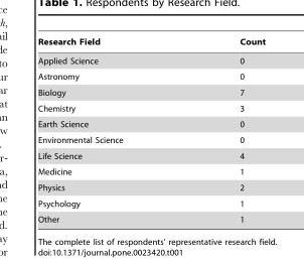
<table><thead><tr><td>Research Field</td><td>Count</td></tr></thead><tbody><tr><td>Applied Science</td><td>0</td></tr><tr><td>Astronomy</td><td>0</td></tr><tr><td>Biology</td><td>7</td></tr><tr><td>Chemistry</td><td>3</td></tr><tr><td>Earth Science</td><td>0</td></tr><tr><td>Environmental Science</td><td>0</td></tr><tr><td>Life Science</td><td>4</td></tr><tr><td>Medicine</td><td>1</td></tr><tr><td>Physics</td><td>2</td></tr><tr><td>Psychology</td><td>1</td></tr><tr><td>Other</td><td>1</td></tr></tbody></table>